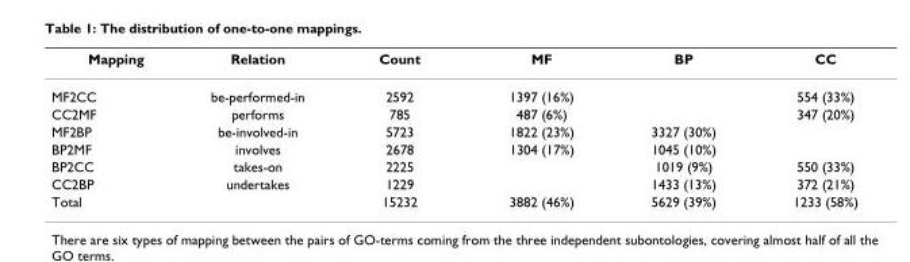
<table><thead><tr><td>Mapping</td><td>Relation</td><td>Count</td><td>MF</td><td>BP</td><td>CC</td></tr></thead><tbody><tr><td>MF2CC</td><td>be-performed-in</td><td>2592</td><td>1397 (16%)</td><td></td><td>554 (33%)</td></tr><tr><td>CC2MF</td><td>performs</td><td>785</td><td>487 (6%)</td><td></td><td>347 (20%)</td></tr><tr><td>MF2BP</td><td>be-involved-in</td><td>5723</td><td>1822 (23%)</td><td>3327 (30%)</td><td></td></tr><tr><td>BP2MF</td><td>involves</td><td>2678</td><td>1304 (17%)</td><td>1045 (10%)</td><td></td></tr><tr><td>BP2CC</td><td>takes-on</td><td>2225</td><td></td><td>1019 (9%)</td><td>550 (33%)</td></tr><tr><td>CC2BP</td><td>undertakes</td><td>1229</td><td></td><td>1433 (13%)</td><td>372 (21%)</td></tr><tr><td>Total</td><td></td><td>15232</td><td>3882 (46%)</td><td>5629 (39%)</td><td>1233 (58%)</td></tr></tbody></table>